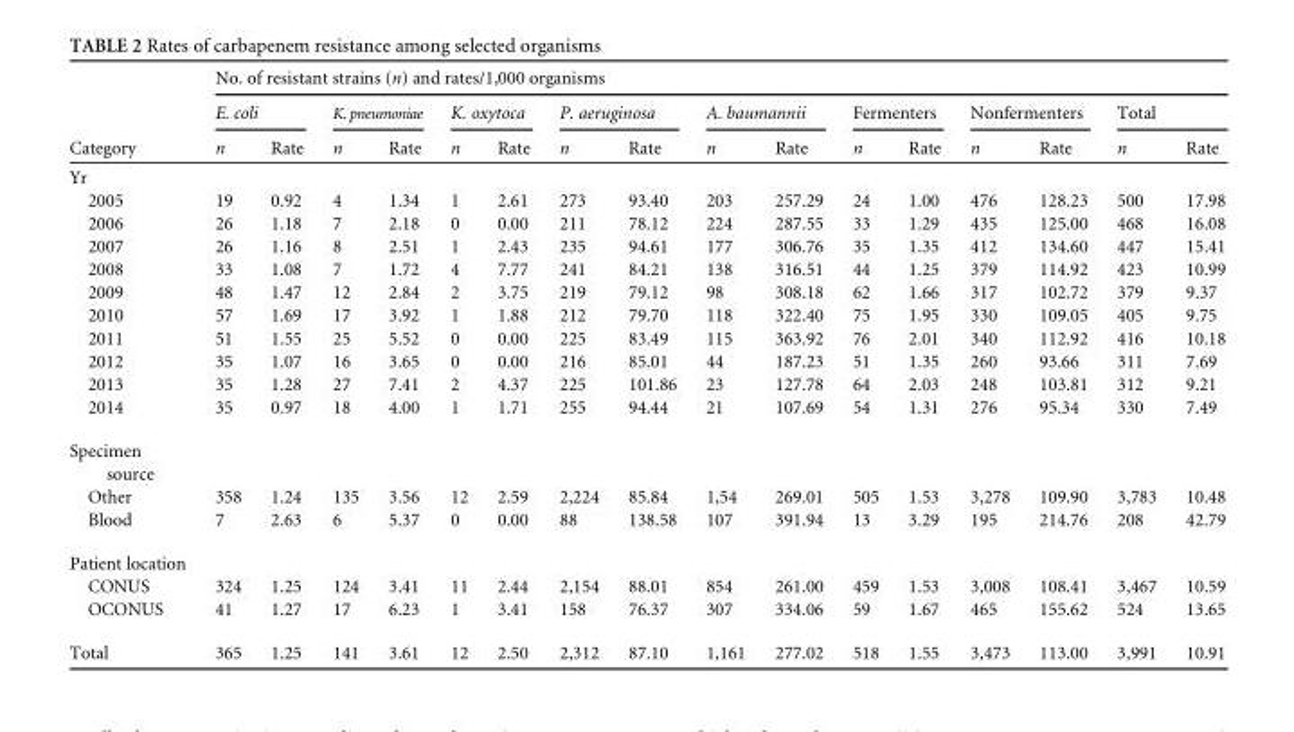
<table><thead><tr><td rowspan="3">Category</td><td colspan="16">No. of resistant strains (n) and rates/1,000 organisms</td></tr><tr><td colspan="2">E. coli</td><td colspan="2">K. pneumoniae</td><td colspan="2">K. oxytoca</td><td colspan="2">P. aeruginosa</td><td colspan="2">A. baumannii</td><td colspan="2">Fermenters</td><td colspan="2">Nonfermenters</td><td colspan="2">Total</td></tr><tr><td>n</td><td>Rate</td><td>n</td><td>Rate</td><td>n</td><td>Rate</td><td>n</td><td>Rate</td><td>n</td><td>Rate</td><td>n</td><td>Rate</td><td>n</td><td>Rate</td><td>n</td><td>Rate</td></tr></thead><tbody><tr><td colspan="17">Yr</td></tr><tr><td>2005</td><td>19</td><td>0.92</td><td>4</td><td>1.34</td><td>1</td><td>2.61</td><td>273</td><td>93.40</td><td>203</td><td>257.29</td><td>24</td><td>1.00</td><td>476</td><td>128.23</td><td>500</td><td>17.98</td></tr><tr><td>2006</td><td>26</td><td>1.18</td><td>7</td><td>2.18</td><td>0</td><td>0.00</td><td>211</td><td>78.12</td><td>224</td><td>287.55</td><td>33</td><td>1.29</td><td>435</td><td>125.00</td><td>468</td><td>16.08</td></tr><tr><td>2007</td><td>26</td><td>1.16</td><td>8</td><td>2.51</td><td>1</td><td>2.43</td><td>235</td><td>94.61</td><td>177</td><td>306.76</td><td>35</td><td>1.35</td><td>412</td><td>134.60</td><td>447</td><td>15.41</td></tr><tr><td>2008</td><td>33</td><td>1.08</td><td>7</td><td>1.72</td><td>4</td><td>7.77</td><td>241</td><td>84.21</td><td>138</td><td>316.51</td><td>44</td><td>1.25</td><td>379</td><td>114.92</td><td>423</td><td>10.99</td></tr><tr><td>2009</td><td>48</td><td>1.47</td><td>12</td><td>2.84</td><td>2</td><td>3.75</td><td>219</td><td>79.12</td><td>98</td><td>308.18</td><td>62</td><td>1.66</td><td>317</td><td>102.72</td><td>379</td><td>9.37</td></tr><tr><td>2010</td><td>57</td><td>1.69</td><td>17</td><td>3.92</td><td>1</td><td>1.88</td><td>212</td><td>79.70</td><td>118</td><td>322.40</td><td>75</td><td>1.95</td><td>330</td><td>109.05</td><td>405</td><td>9.75</td></tr><tr><td>2011</td><td>51</td><td>1.55</td><td>25</td><td>5.52</td><td>0</td><td>0.00</td><td>225</td><td>83.49</td><td>115</td><td>363.92</td><td>76</td><td>2.01</td><td>340</td><td>112.92</td><td>416</td><td>10.18</td></tr><tr><td>2012</td><td>35</td><td>1.07</td><td>16</td><td>3.65</td><td>0</td><td>0.00</td><td>216</td><td>85.01</td><td>44</td><td>187.23</td><td>51</td><td>1.35</td><td>260</td><td>93.66</td><td>311</td><td>7.69</td></tr><tr><td>2013</td><td>35</td><td>1.28</td><td>27</td><td>7.41</td><td>2</td><td>4.37</td><td>225</td><td>101.86</td><td>23</td><td>127.78</td><td>64</td><td>2.03</td><td>248</td><td>103.81</td><td>312</td><td>9.21</td></tr><tr><td>2014</td><td>35</td><td>0.97</td><td>18</td><td>4.00</td><td>1</td><td>1.71</td><td>255</td><td>94.44</td><td>21</td><td>107.69</td><td>54</td><td>1.31</td><td>276</td><td>95.34</td><td>330</td><td>7.49</td></tr><tr><td colspan="17">Specimen source</td></tr><tr><td>Other</td><td>358</td><td>1.24</td><td>135</td><td>3.56</td><td>12</td><td>2.59</td><td>2,224</td><td>85.84</td><td>1,54</td><td>269.01</td><td>505</td><td>1.53</td><td>3,278</td><td>109.90</td><td>3,783</td><td>10.48</td></tr><tr><td>Blood</td><td>7</td><td>2.63</td><td>6</td><td>5.37</td><td>0</td><td>0.00</td><td>88</td><td>138.58</td><td>107</td><td>391.94</td><td>13</td><td>3.29</td><td>195</td><td>214.76</td><td>208</td><td>42.79</td></tr><tr><td colspan="17">Patient location</td></tr><tr><td>CONUS</td><td>324</td><td>1.25</td><td>124</td><td>3.41</td><td>11</td><td>2.44</td><td>2,154</td><td>88.01</td><td>854</td><td>261.00</td><td>459</td><td>1.53</td><td>3,008</td><td>108.41</td><td>3,467</td><td>10.59</td></tr><tr><td>OCONUS</td><td>41</td><td>1.27</td><td>17</td><td>6.23</td><td>1</td><td>3.41</td><td>158</td><td>76.37</td><td>307</td><td>334.06</td><td>59</td><td>1.67</td><td>465</td><td>155.62</td><td>524</td><td>13.65</td></tr><tr><td>Total</td><td>365</td><td>1.25</td><td>141</td><td>3.61</td><td>12</td><td>2.50</td><td>2,312</td><td>87.10</td><td>1,161</td><td>277.02</td><td>518</td><td>1.55</td><td>3,473</td><td>113.00</td><td>3,991</td><td>10.91</td></tr></tbody></table>